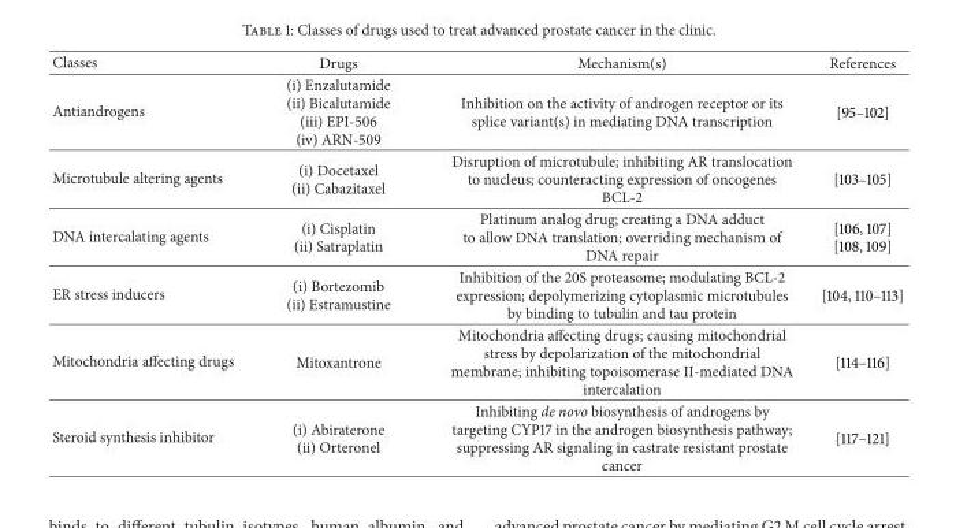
<table><thead><tr><td>Classes</td><td>Drugs</td><td>Mechanism(s)</td><td>References</td></tr></thead><tbody><tr><td>Antiandrogens</td><td>(i) Enzalutamide (ii) Bicalutamide (iii) EPI-506 (iv) ARN-509</td><td>Inhibition on the activity of androgen receptor or its splice variant(s) in mediating DNA transcription</td><td>[95–102]</td></tr><tr><td>Microtubule altering agents</td><td>(i) Docetaxel (ii) Cabazitaxel</td><td>Disruption of microtubule; inhibiting AR translocation to nucleus; counteracting expression of oncogenes BCL-2</td><td>[103–105]</td></tr><tr><td>DNA intercalating agents</td><td>(i) Cisplatin (ii) Satraplatin</td><td>Platinum analog drug; creating a DNA adduct to allow DNA translation; overriding mechanism of DNA repair</td><td>[106, 107] [108, 109]</td></tr><tr><td>ER stress inducers</td><td>(i) Bortezomib (ii) Estramustine</td><td>Inhibition of the 20S proteasome; modulating BCL-2 expression; depolymerizing cytoplasmic microtubules by binding to tubulin and tau protein</td><td>[104, 110–113]</td></tr><tr><td>Mitochondria affecting drugs</td><td>Mitoxantrone</td><td>Mitochondria affecting drugs; causing mitochondrial stress by depolarization of the mitochondrial membrane; inhibiting topoisomerase II-mediated DNA intercalation</td><td>[114–116]</td></tr><tr><td>Steroid synthesis inhibitor</td><td>(i) Abiraterone (ii) Orteronel</td><td>Inhibiting de novo biosynthesis of androgens by targeting CYP17 in the androgen biosynthesis pathway; suppressing AR signaling in castrate resistant prostate cancer</td><td>[117–121]</td></tr></tbody></table>